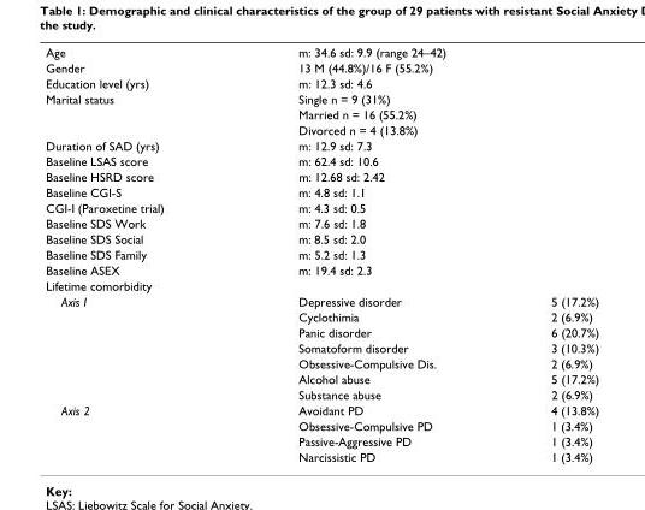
<table><tbody><tr><td>Age</td><td>m: 34.6 sd: 9.9 (range 24–42)</td><td></td></tr><tr><td>Gender</td><td>13 M (44.8%)/16 F (55.2%)</td><td></td></tr><tr><td>Education level (yrs)</td><td>m: 12.3 sd: 4.6</td><td></td></tr><tr><td rowspan="3">Marital status</td><td>Single n = 9 (31%)</td><td></td></tr><tr><td>Married n = 16 (55.2%)</td><td></td></tr><tr><td>Divorced n = 4 (13.8%)</td><td></td></tr><tr><td>Duration of SAD (yrs)</td><td>m: 12.9 sd: 7.3</td><td></td></tr><tr><td>Baseline LSAS score</td><td>m: 62.4 sd: 10.6</td><td></td></tr><tr><td>Baseline HSRD score</td><td>m: 12.68 sd: 2.42</td><td></td></tr><tr><td>Baseline CGI-S</td><td>m: 4.8 sd: 1.1</td><td></td></tr><tr><td>CGI-I (Paroxetine trial)</td><td>m: 4.3 sd: 0.5</td><td></td></tr><tr><td>Baseline SDS Work</td><td>m: 7.6 sd: 1.8</td><td></td></tr><tr><td>Baseline SDS Social</td><td>m: 8.5 sd: 2.0</td><td></td></tr><tr><td>Baseline SDS Family</td><td>m: 5.2 sd: 1.3</td><td></td></tr><tr><td>Baseline ASEX</td><td>m: 19.4 sd: 2.3</td><td></td></tr><tr><td colspan="3">Lifetime comorbidity</td></tr><tr><td rowspan="7">Axis I</td><td>Depressive disorder</td><td>5 (17.2%)</td></tr><tr><td>Cyclothimia</td><td>2 (6.9%)</td></tr><tr><td>Panic disorder</td><td>6 (20.7%)</td></tr><tr><td>Somatoform disorder</td><td>3 (10.3%)</td></tr><tr><td>Obsessive-Compulsive Dis.</td><td>2 (6.9%)</td></tr><tr><td>Alcohol abuse</td><td>5 (17.2%)</td></tr><tr><td>Substance abuse</td><td>2 (6.9%)</td></tr><tr><td rowspan="4">Axis 2</td><td>Avoidant PD</td><td>4 (13.8%)</td></tr><tr><td>Obsessive-Compulsive PD</td><td>1 (3.4%)</td></tr><tr><td>Passive-Aggressive PD</td><td>1 (3.4%)</td></tr><tr><td>Narcissistic PD</td><td>1 (3.4%)</td></tr></tbody></table>